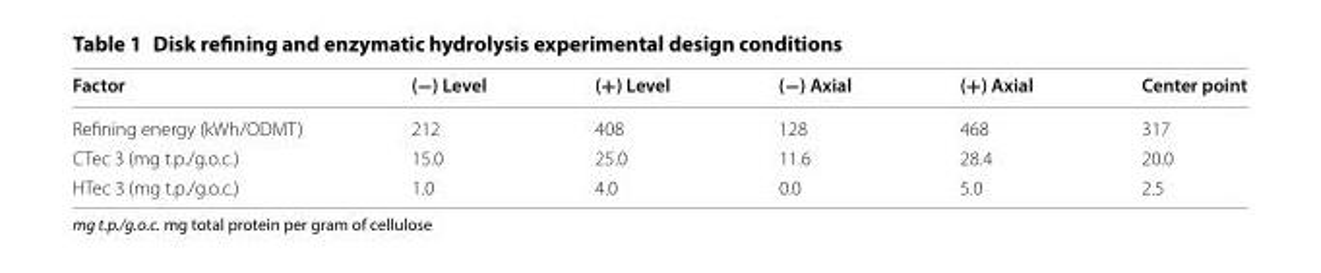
<table><thead><tr><td>Factor</td><td>(−) Level</td><td>(+) Level</td><td>(−) Axial</td><td>(+) Axial</td><td>Center point</td></tr></thead><tbody><tr><td>Refining energy (kWh/ODMT)</td><td>212</td><td>408</td><td>128</td><td>468</td><td>317</td></tr><tr><td>CTec 3 (mg t.p./g.o.c.)</td><td>15.0</td><td>25.0</td><td>11.6</td><td>28.4</td><td>20.0</td></tr><tr><td>HTec 3 (mg t.p./g.o.c.)</td><td>1.0</td><td>4.0</td><td>0.0</td><td>5.0</td><td>2.5</td></tr></tbody></table>